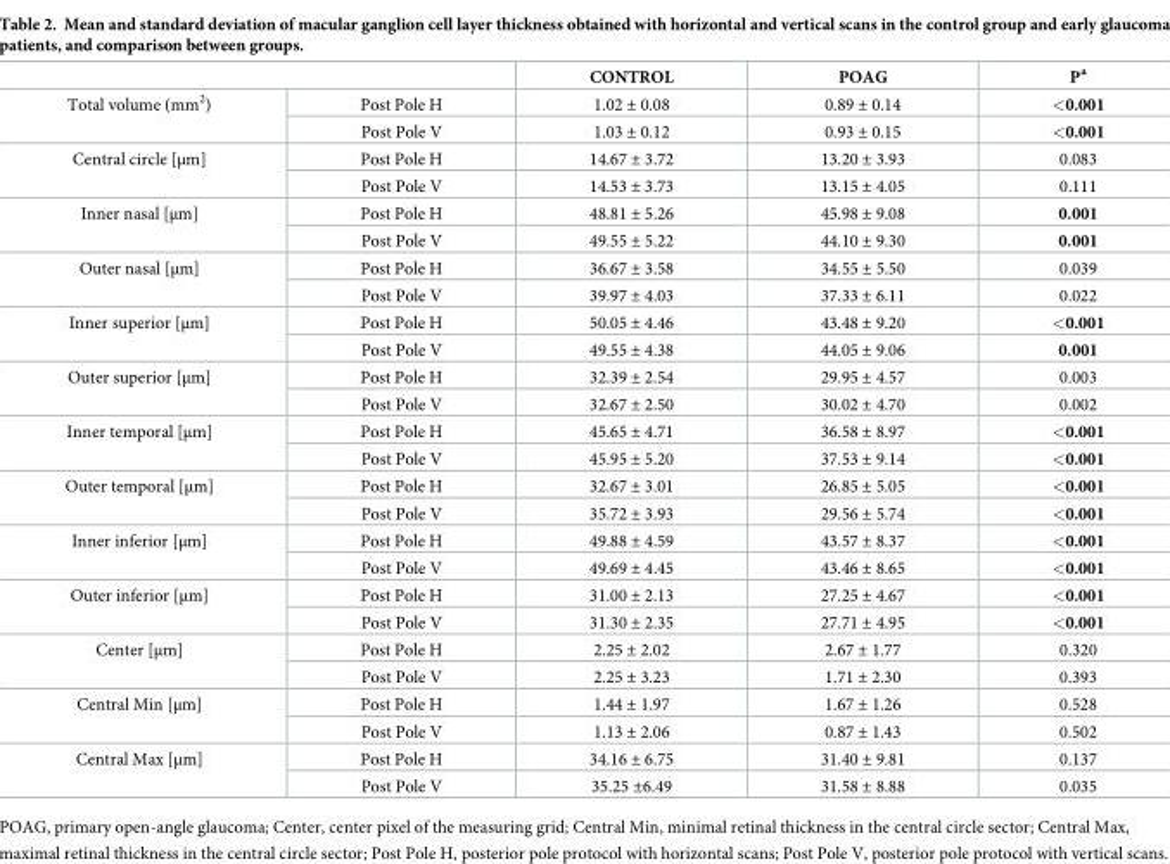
<table><thead><tr><td></td><td></td><td>CONTROL</td><td>POAG</td><td>P<sup>a</sup></td></tr></thead><tbody><tr><td rowspan="2">Total volume (mm<sup>2</sup>)</td><td>Post Pole H</td><td>1.02 ± 0.08</td><td>0.89 ± 0.14</td><td>&lt;0.001</td></tr><tr><td>Post Pole V</td><td>1.03 ± 0.12</td><td>0.93 ± 0.15</td><td>&lt;0.001</td></tr><tr><td rowspan="2">Central circle [μm]</td><td>Post Pole H</td><td>14.67 ± 3.72</td><td>13.20 ± 3.93</td><td>0.083</td></tr><tr><td>Post Pole V</td><td>14.53 ± 3.73</td><td>13.15 ± 4.05</td><td>0.111</td></tr><tr><td rowspan="2">Inner nasal [μm]</td><td>Post Pole H</td><td>48.81 ± 5.26</td><td>45.98 ± 9.08</td><td>0.001</td></tr><tr><td>Post Pole V</td><td>49.55 ± 5.22</td><td>44.10 ± 9.30</td><td>0.001</td></tr><tr><td rowspan="2">Outer nasal [μm]</td><td>Post Pole H</td><td>36.67 ± 3.58</td><td>34.55 ± 5.50</td><td>0.039</td></tr><tr><td>Post Pole V</td><td>39.97 ± 4.03</td><td>37.33 ± 6.11</td><td>0.022</td></tr><tr><td rowspan="2">Inner superior [μm]</td><td>Post Pole H</td><td>50.05 ± 4.46</td><td>43.48 ± 9.20</td><td>&lt;0.001</td></tr><tr><td>Post Pole V</td><td>49.55 ± 4.38</td><td>44.05 ± 9.06</td><td>0.001</td></tr><tr><td rowspan="2">Outer superior [μm]</td><td>Post Pole H</td><td>32.39 ± 2.54</td><td>29.95 ± 4.57</td><td>0.003</td></tr><tr><td>Post Pole V</td><td>32.67 ± 2.50</td><td>30.02 ± 4.70</td><td>0.002</td></tr><tr><td rowspan="2">Inner temporal [μm]</td><td>Post Pole H</td><td>45.65 ± 4.71</td><td>36.58 ± 8.97</td><td>&lt;0.001</td></tr><tr><td>Post Pole V</td><td>45.95 ± 5.20</td><td>37.53 ± 9.14</td><td>&lt;0.001</td></tr><tr><td rowspan="2">Outer temporal [μm]</td><td>Post Pole H</td><td>32.67 ± 3.01</td><td>26.85 ± 5.05</td><td>&lt;0.001</td></tr><tr><td>Post Pole V</td><td>35.72 ± 3.93</td><td>29.56 ± 5.74</td><td>&lt;0.001</td></tr><tr><td rowspan="2">Inner inferior [μm]</td><td>Post Pole H</td><td>49.88 ± 4.59</td><td>43.57 ± 8.37</td><td>&lt;0.001</td></tr><tr><td>Post Pole V</td><td>49.69 ± 4.45</td><td>43.46 ± 8.65</td><td>&lt;0.001</td></tr><tr><td rowspan="2">Outer inferior [μm]</td><td>Post Pole H</td><td>31.00 ± 2.13</td><td>27.25 ± 4.67</td><td>&lt;0.001</td></tr><tr><td>Post Pole V</td><td>31.30 ± 2.35</td><td>27.71 ± 4.95</td><td>&lt;0.001</td></tr><tr><td rowspan="2">Center [μm]</td><td>Post Pole H</td><td>2.25 ± 2.02</td><td>2.67 ± 1.77</td><td>0.320</td></tr><tr><td>Post Pole V</td><td>2.25 ± 3.23</td><td>1.71 ± 2.30</td><td>0.393</td></tr><tr><td rowspan="2">Central Min [μm]</td><td>Post Pole H</td><td>1.44 ± 1.97</td><td>1.67 ± 1.26</td><td>0.528</td></tr><tr><td>Post Pole V</td><td>1.13 ± 2.06</td><td>0.87 ± 1.43</td><td>0.502</td></tr><tr><td rowspan="2">Central Max [μm]</td><td>Post Pole H</td><td>34.16 ± 6.75</td><td>31.40 ± 9.81</td><td>0.137</td></tr><tr><td>Post Pole V</td><td>35.25 ±6.49</td><td>31.58 ± 8.88</td><td>0.035</td></tr></tbody></table>